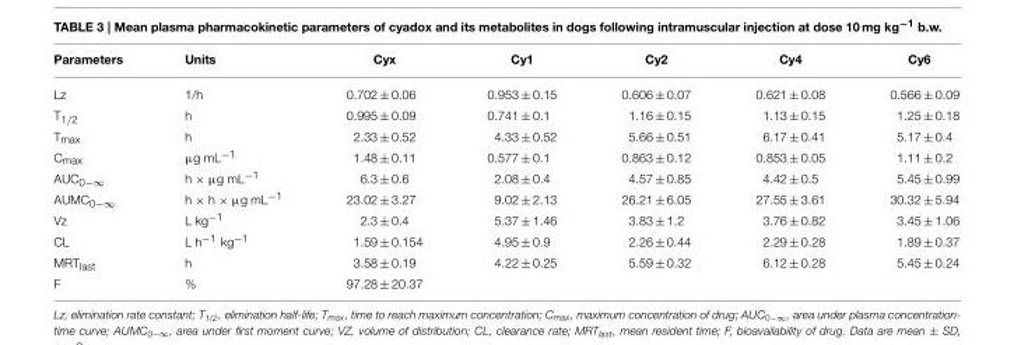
<table><thead><tr><td>Parameters</td><td>Units</td><td>Cyx</td><td>Cy1</td><td>Cy2</td><td>Cy4</td><td>Cy6</td></tr></thead><tbody><tr><td>Lz</td><td>1/h</td><td>0.702 ± 0.06</td><td>0.953 ± 0.15</td><td>0.606 ± 0.07</td><td>0.621 ± 0.08</td><td>0.566 ± 0.09</td></tr><tr><td>T<sub>1/2</sub></td><td>h</td><td>0.995 ± 0.09</td><td>0.741 ± 0.1</td><td>1.16 ± 0.15</td><td>1.13 ± 0.15</td><td>1.25 ± 0.18</td></tr><tr><td>T<sub>max</sub></td><td>h</td><td>2.33 ± 0.52</td><td>4.33 ± 0.52</td><td>5.66 ± 0.51</td><td>6.17 ± 0.41</td><td>5.17 ± 0.4</td></tr><tr><td>C<sub>max</sub></td><td>µg mL<sup>−1</sup></td><td>1.48 ± 0.11</td><td>0.577 ± 0.1</td><td>0.863 ± 0.12</td><td>0.853 ± 0.05</td><td>1.11 ± 0.2</td></tr><tr><td>AUC<sub>0−∞</sub></td><td>h × µg mL<sup>−1</sup></td><td>6.3 ± 0.6</td><td>2.08 ± 0.4</td><td>4.57 ± 0.85</td><td>4.42 ± 0.5</td><td>5.45 ± 0.99</td></tr><tr><td>AUMC<sub>0−∞</sub></td><td>h × h × µg mL<sup>−1</sup></td><td>23.02 ± 3.27</td><td>9.02 ± 2.13</td><td>26.21 ± 6.05</td><td>27.55 ± 3.61</td><td>30.32 ± 5.94</td></tr><tr><td>Vz</td><td>L kg<sup>−1</sup></td><td>2.3 ± 0.4</td><td>5.37 ± 1.46</td><td>3.83 ± 1.2</td><td>3.76 ± 0.82</td><td>3.45 ± 1.06</td></tr><tr><td>CL</td><td>L h<sup>−1</sup> kg<sup>−1</sup></td><td>1.59 ± 0.154</td><td>4.95 ± 0.9</td><td>2.26 ± 0.44</td><td>2.29 ± 0.28</td><td>1.89 ± 0.37</td></tr><tr><td>MRT<sub>last</sub></td><td>h</td><td>3.58 ± 0.19</td><td>4.22 ± 0.25</td><td>5.59 ± 0.32</td><td>6.12 ± 0.28</td><td>5.45 ± 0.24</td></tr><tr><td>F</td><td>%</td><td>97.28 ± 20.37</td><td></td><td></td><td></td><td></td></tr></tbody></table>